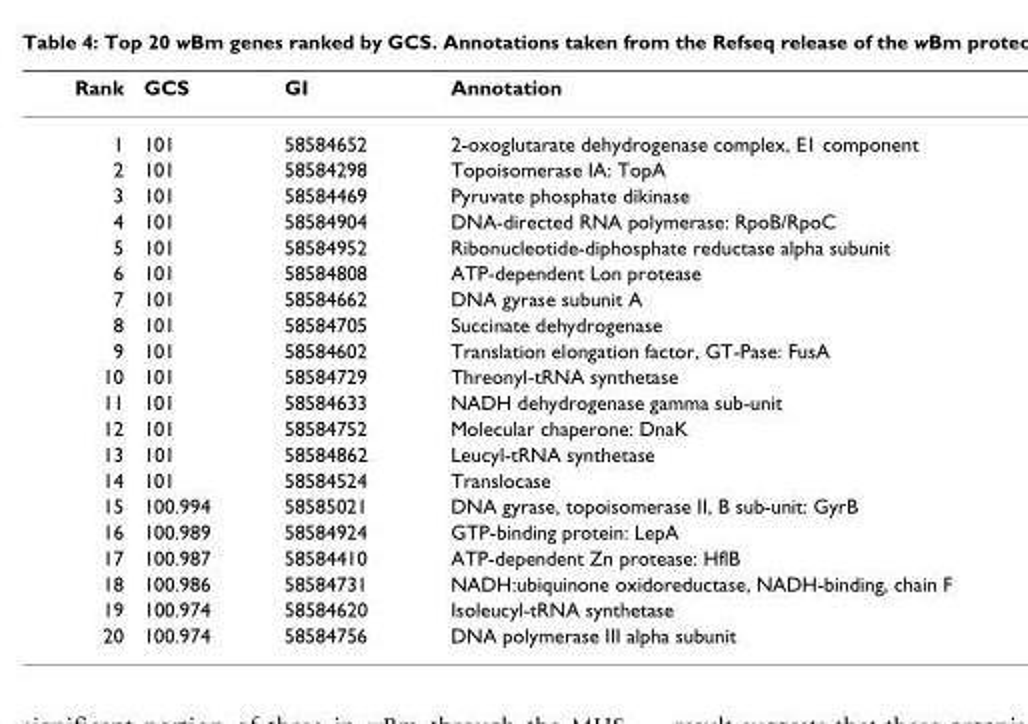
<table><thead><tr><td>Rank</td><td>GCS</td><td>GI</td><td>Annotation</td></tr></thead><tbody><tr><td>1</td><td>101</td><td>58584652</td><td>2-oxoglutarate dehydrogenase complex, E1 component</td></tr><tr><td>2</td><td>101</td><td>58584298</td><td>Topoisomerase IA: TopA</td></tr><tr><td>3</td><td>101</td><td>58584469</td><td>Pyruvate phosphate dikinase</td></tr><tr><td>4</td><td>101</td><td>58584904</td><td>DNA-directed RNA polymerase: RpoB/RpoC</td></tr><tr><td>5</td><td>101</td><td>58584952</td><td>Ribonucleotide-diphosphate reductase alpha subunit</td></tr><tr><td>6</td><td>101</td><td>58584808</td><td>ATP-dependent Lon protease</td></tr><tr><td>7</td><td>101</td><td>58584662</td><td>DNA gyrase subunit A</td></tr><tr><td>8</td><td>101</td><td>58584705</td><td>Succinate dehydrogenase</td></tr><tr><td>9</td><td>101</td><td>58584602</td><td>Translation elongation factor, GT-Pase: FusA</td></tr><tr><td>10</td><td>101</td><td>58584729</td><td>Threonyl-tRNA synthetase</td></tr><tr><td>11</td><td>101</td><td>58584633</td><td>NADH dehydrogenase gamma sub-unit</td></tr><tr><td>12</td><td>101</td><td>58584752</td><td>Molecular chaperone: DnaK</td></tr><tr><td>13</td><td>101</td><td>58584862</td><td>Leucyl-tRNA synthetase</td></tr><tr><td>14</td><td>101</td><td>58584524</td><td>Translocase</td></tr><tr><td>15</td><td>100.994</td><td>58585021</td><td>DNA gyrase, topoisomerase II, B sub-unit: GyrB</td></tr><tr><td>16</td><td>100.989</td><td>58584924</td><td>GTP-binding protein: LepA</td></tr><tr><td>17</td><td>100.987</td><td>58584410</td><td>ATP-dependent Zn protease: HflB</td></tr><tr><td>18</td><td>100.986</td><td>58584731</td><td>NADH:ubiquinone oxidoreductase, NADH-binding, chain F</td></tr><tr><td>19</td><td>100.974</td><td>58584620</td><td>Isoleucyl-tRNA synthetase</td></tr><tr><td>20</td><td>100.974</td><td>58584756</td><td>DNA polymerase III alpha subunit</td></tr></tbody></table>